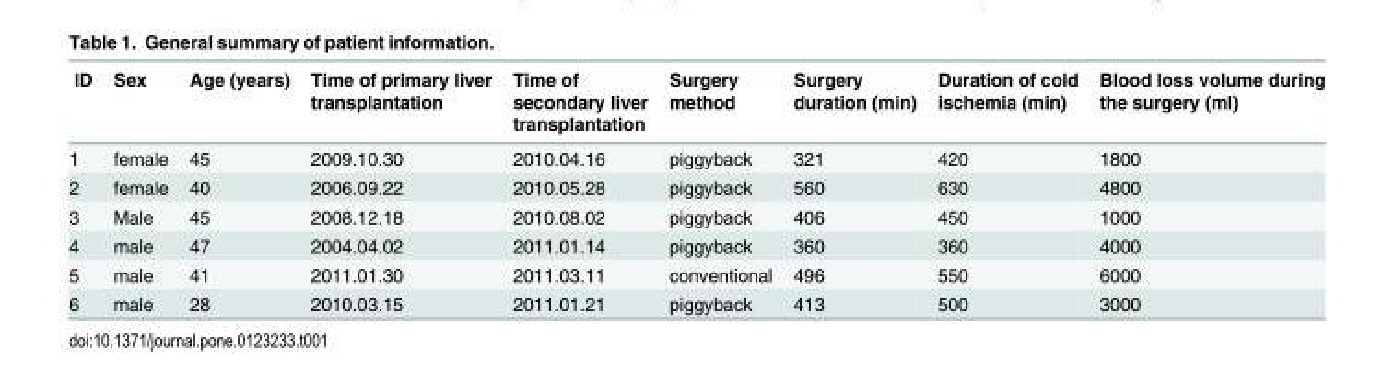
<table><thead><tr><td>ID</td><td>Sex</td><td>Age (years)</td><td>Time of primary liver transplantation</td><td>Time of secondary liver transplantation</td><td>Surgery method</td><td>Surgery duration (min)</td><td>Duration of cold ischemia (min)</td><td>Blood loss volume during the surgery (ml)</td></tr></thead><tbody><tr><td>1</td><td>female</td><td>45</td><td>2009.10.30</td><td>2010.04.16</td><td>piggyback</td><td>321</td><td>420</td><td>1800</td></tr><tr><td>2</td><td>female</td><td>40</td><td>2006.09.22</td><td>2010.05.28</td><td>piggyback</td><td>560</td><td>630</td><td>4800</td></tr><tr><td>3</td><td>Male</td><td>45</td><td>2008.12.18</td><td>2010.08.02</td><td>piggyback</td><td>406</td><td>450</td><td>1000</td></tr><tr><td>4</td><td>male</td><td>47</td><td>2004.04.02</td><td>2011.01.14</td><td>piggyback</td><td>360</td><td>360</td><td>4000</td></tr><tr><td>5</td><td>male</td><td>41</td><td>2011.01.30</td><td>2011.03.11</td><td>conventional</td><td>496</td><td>550</td><td>6000</td></tr><tr><td>6</td><td>male</td><td>28</td><td>2010.03.15</td><td>2011.01.21</td><td>piggyback</td><td>413</td><td>500</td><td>3000</td></tr></tbody></table>